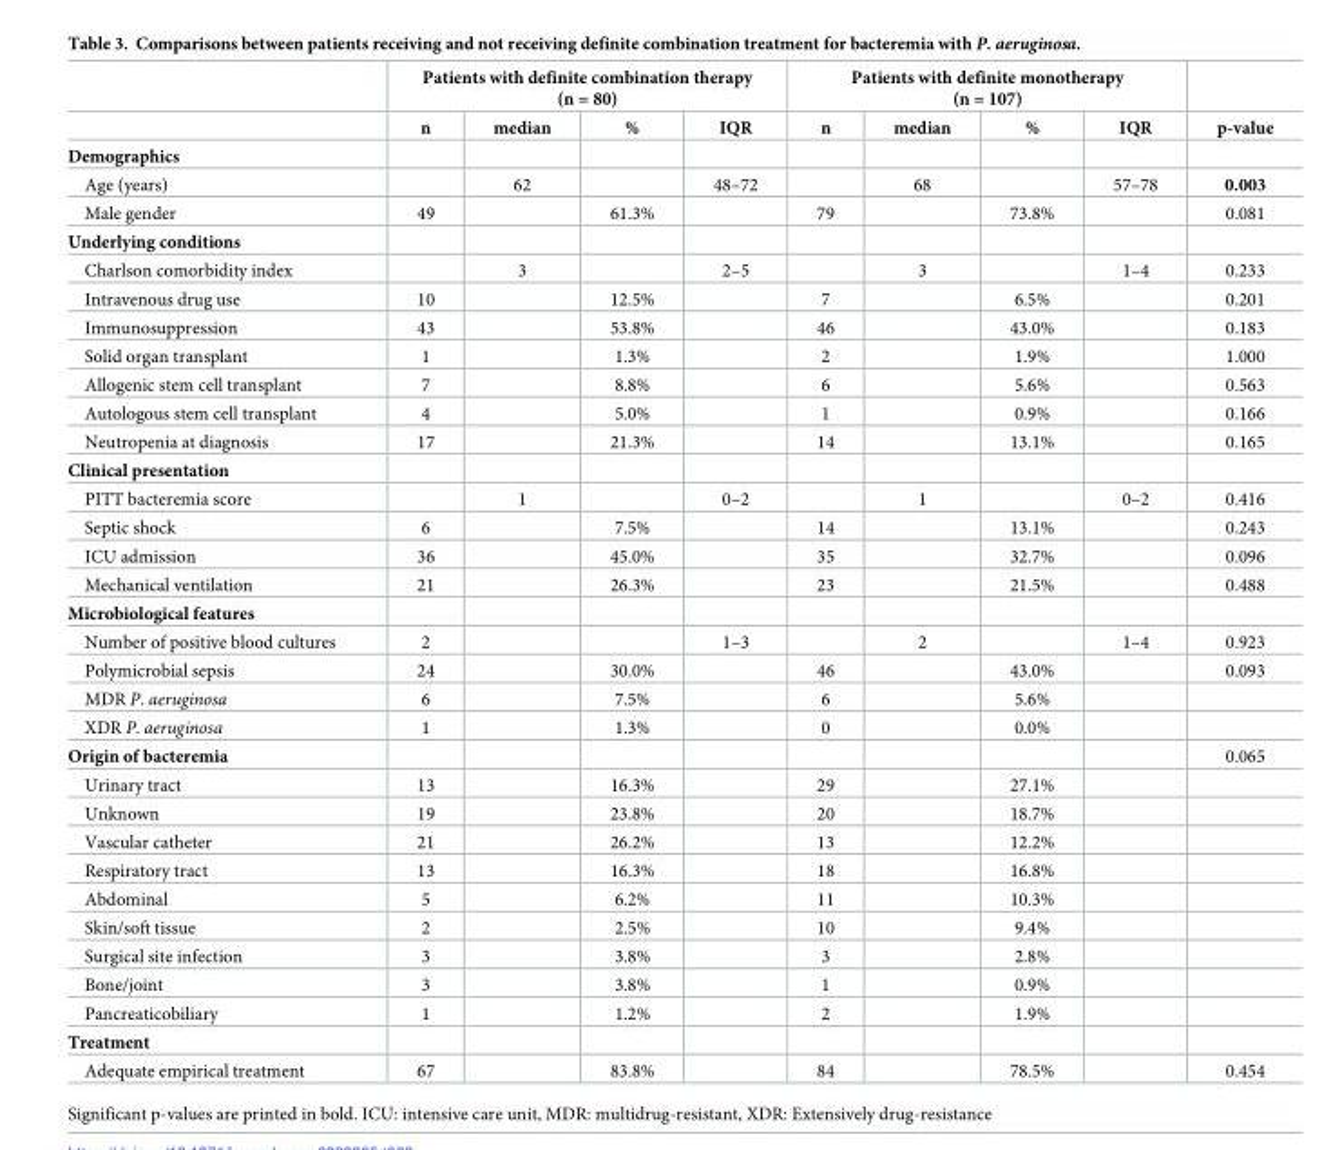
<table><thead><tr><td rowspan="2"></td><td colspan="4">Patients with definite combination therapy (n = 80)</td><td colspan="4">Patients with definite monotherapy (n = 107)</td><td rowspan="2">p-value</td></tr><tr><td>n</td><td>median</td><td>%</td><td>IQR</td><td>n</td><td>median</td><td>%</td><td>IQR</td></tr></thead><tbody><tr><td colspan="10">Demographics</td></tr><tr><td>Age (years)</td><td></td><td>62</td><td></td><td>48–72</td><td></td><td>68</td><td></td><td>57–78</td><td>0.003</td></tr><tr><td>Male gender</td><td>49</td><td></td><td>61.3%</td><td></td><td>79</td><td></td><td>73.8%</td><td></td><td>0.081</td></tr><tr><td colspan="10">Underlying conditions</td></tr><tr><td>Charlson comorbidity index</td><td></td><td>3</td><td></td><td>2–5</td><td></td><td>3</td><td></td><td>1–4</td><td>0.233</td></tr><tr><td>Intravenous drug use</td><td>10</td><td></td><td>12.5%</td><td></td><td>7</td><td></td><td>6.5%</td><td></td><td>0.201</td></tr><tr><td>Immunosuppression</td><td>43</td><td></td><td>53.8%</td><td></td><td>46</td><td></td><td>43.0%</td><td></td><td>0.183</td></tr><tr><td>Solid organ transplant</td><td>1</td><td></td><td>1.3%</td><td></td><td>2</td><td></td><td>1.9%</td><td></td><td>1.000</td></tr><tr><td>Allogenic stem cell transplant</td><td>7</td><td></td><td>8.8%</td><td></td><td>6</td><td></td><td>5.6%</td><td></td><td>0.563</td></tr><tr><td>Autologous stem cell transplant</td><td>4</td><td></td><td>5.0%</td><td></td><td>1</td><td></td><td>0.9%</td><td></td><td>0.166</td></tr><tr><td>Neutropenia at diagnosis</td><td>17</td><td></td><td>21.3%</td><td></td><td>14</td><td></td><td>13.1%</td><td></td><td>0.165</td></tr><tr><td colspan="10">Clinical presentation</td></tr><tr><td>PITT bacteremia score</td><td></td><td>1</td><td></td><td>0–2</td><td></td><td>1</td><td></td><td>0–2</td><td>0.416</td></tr><tr><td>Septic shock</td><td>6</td><td></td><td>7.5%</td><td></td><td>14</td><td></td><td>13.1%</td><td></td><td>0.243</td></tr><tr><td>ICU admission</td><td>36</td><td></td><td>45.0%</td><td></td><td>35</td><td></td><td>32.7%</td><td></td><td>0.096</td></tr><tr><td>Mechanical ventilation</td><td>21</td><td></td><td>26.3%</td><td></td><td>23</td><td></td><td>21.5%</td><td></td><td>0.488</td></tr><tr><td colspan="10">Microbiological features</td></tr><tr><td>Number of positive blood cultures</td><td>2</td><td></td><td></td><td>1–3</td><td></td><td>2</td><td></td><td>1–4</td><td>0.923</td></tr><tr><td>Polymicrobial sepsis</td><td>24</td><td></td><td>30.0%</td><td></td><td>46</td><td></td><td>43.0%</td><td></td><td>0.093</td></tr><tr><td>MDR P. aeruginosa</td><td>6</td><td></td><td>7.5%</td><td></td><td>6</td><td></td><td>5.6%</td><td></td><td></td></tr><tr><td>XDR P. aeruginosa</td><td>1</td><td></td><td>1.3%</td><td></td><td>0</td><td></td><td>0.0%</td><td></td><td></td></tr><tr><td>Origin of bacteremia</td><td></td><td></td><td></td><td></td><td></td><td></td><td></td><td></td><td>0.065</td></tr><tr><td>Urinary tract</td><td>13</td><td></td><td>16.3%</td><td></td><td>29</td><td></td><td>27.1%</td><td></td><td></td></tr><tr><td>Unknown</td><td>19</td><td></td><td>23.8%</td><td></td><td>20</td><td></td><td>18.7%</td><td></td><td></td></tr><tr><td>Vascular catheter</td><td>21</td><td></td><td>26.2%</td><td></td><td>13</td><td></td><td>12.2%</td><td></td><td></td></tr><tr><td>Respiratory tract</td><td>13</td><td></td><td>16.3%</td><td></td><td>18</td><td></td><td>16.8%</td><td></td><td></td></tr><tr><td>Abdominal</td><td>5</td><td></td><td>6.2%</td><td></td><td>11</td><td></td><td>10.3%</td><td></td><td></td></tr><tr><td>Skin/soft tissue</td><td>2</td><td></td><td>2.5%</td><td></td><td>10</td><td></td><td>9.4%</td><td></td><td></td></tr><tr><td>Surgical site infection</td><td>3</td><td></td><td>3.8%</td><td></td><td>3</td><td></td><td>2.8%</td><td></td><td></td></tr><tr><td>Bone/joint</td><td>3</td><td></td><td>3.8%</td><td></td><td>1</td><td></td><td>0.9%</td><td></td><td></td></tr><tr><td>Pancreaticobiliary</td><td>1</td><td></td><td>1.2%</td><td></td><td>2</td><td></td><td>1.9%</td><td></td><td></td></tr><tr><td colspan="10">Treatment</td></tr><tr><td>Adequate empirical treatment</td><td>67</td><td></td><td>83.8%</td><td></td><td>84</td><td></td><td>78.5%</td><td></td><td>0.454</td></tr></tbody></table>